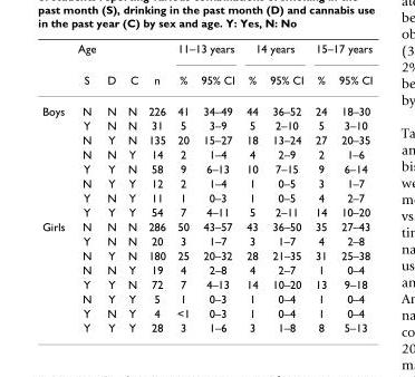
<table><thead><tr><td rowspan="2"></td><td rowspan="2">Age S</td><td rowspan="2">D</td><td rowspan="2">C</td><td rowspan="2">n</td><td colspan="2">11–13 years</td><td colspan="2">14 years</td><td colspan="2">15–17 years</td></tr><tr><td>%</td><td>95% CI</td><td>%</td><td>95% CI</td><td>%</td><td>95% CI</td></tr></thead><tbody><tr><td rowspan="8">Boys</td><td>N</td><td>N</td><td>N</td><td>226</td><td>41</td><td>34–49</td><td>44</td><td>36–52</td><td>24</td><td>18–30</td></tr><tr><td>Y</td><td>N</td><td>N</td><td>31</td><td>5</td><td>3–9</td><td>5</td><td>2–10</td><td>5</td><td>3–10</td></tr><tr><td>N</td><td>Y</td><td>N</td><td>135</td><td>20</td><td>15–27</td><td>18</td><td>13–24</td><td>27</td><td>20–35</td></tr><tr><td>N</td><td>N</td><td>Y</td><td>14</td><td>2</td><td>1–4</td><td>4</td><td>2–9</td><td>2</td><td>1–6</td></tr><tr><td>Y</td><td>Y</td><td>N</td><td>58</td><td>9</td><td>6–13</td><td>10</td><td>7–15</td><td>9</td><td>6–14</td></tr><tr><td>N</td><td>Y</td><td>Y</td><td>12</td><td>2</td><td>1–4</td><td>1</td><td>0–5</td><td>3</td><td>1–7</td></tr><tr><td>Y</td><td>N</td><td>Y</td><td>11</td><td>1</td><td>0–3</td><td>1</td><td>0–5</td><td>4</td><td>2–7</td></tr><tr><td>Y</td><td>Y</td><td>Y</td><td>54</td><td>7</td><td>4–11</td><td>5</td><td>2–11</td><td>14</td><td>10–20</td></tr><tr><td rowspan="8">Girls</td><td>N</td><td>N</td><td>N</td><td>286</td><td>50</td><td>43–57</td><td>43</td><td>36–50</td><td>35</td><td>27–43</td></tr><tr><td>Y</td><td>N</td><td>N</td><td>20</td><td>3</td><td>1–7</td><td>3</td><td>1–7</td><td>4</td><td>2–8</td></tr><tr><td>N</td><td>Y</td><td>N</td><td>180</td><td>25</td><td>20–32</td><td>28</td><td>21–35</td><td>31</td><td>25–38</td></tr><tr><td>N</td><td>N</td><td>Y</td><td>19</td><td>4</td><td>2–8</td><td>4</td><td>2–7</td><td>1</td><td>0–4</td></tr><tr><td>Y</td><td>Y</td><td>N</td><td>72</td><td>7</td><td>4–13</td><td>14</td><td>10–20</td><td>13</td><td>9–18</td></tr><tr><td>N</td><td>Y</td><td>Y</td><td>5</td><td>1</td><td>0–3</td><td>1</td><td>0–4</td><td>1</td><td>0–4</td></tr><tr><td>Y</td><td>N</td><td>Y</td><td>4</td><td>&lt;1</td><td>0–3</td><td>1</td><td>0–4</td><td>1</td><td>0–4</td></tr><tr><td>Y</td><td>Y</td><td>Y</td><td>28</td><td>3</td><td>1–6</td><td>3</td><td>1–8</td><td>8</td><td>5–13</td></tr></tbody></table>